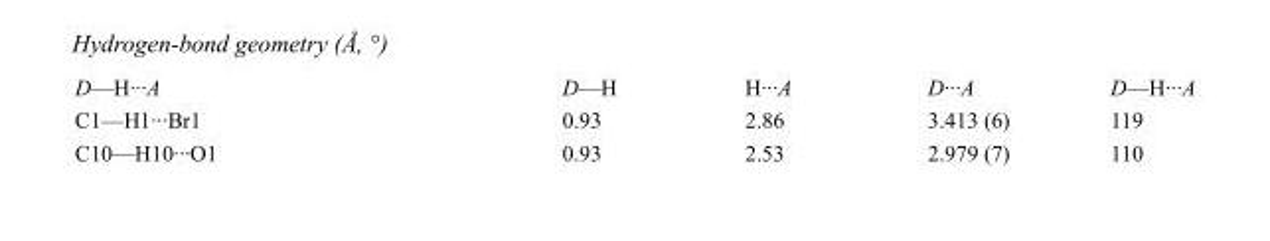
<table><tbody><tr><td>D—H···A</td><td>D—H</td><td>H···A</td><td>D···A</td><td>D—H···A</td></tr><tr><td>C1—H1···Br1</td><td>0.93</td><td>2.86</td><td>3.413 (6)</td><td>119</td></tr><tr><td>C10—H10···O1</td><td>0.93</td><td>2.53</td><td>2.979 (7)</td><td>110</td></tr></tbody></table>